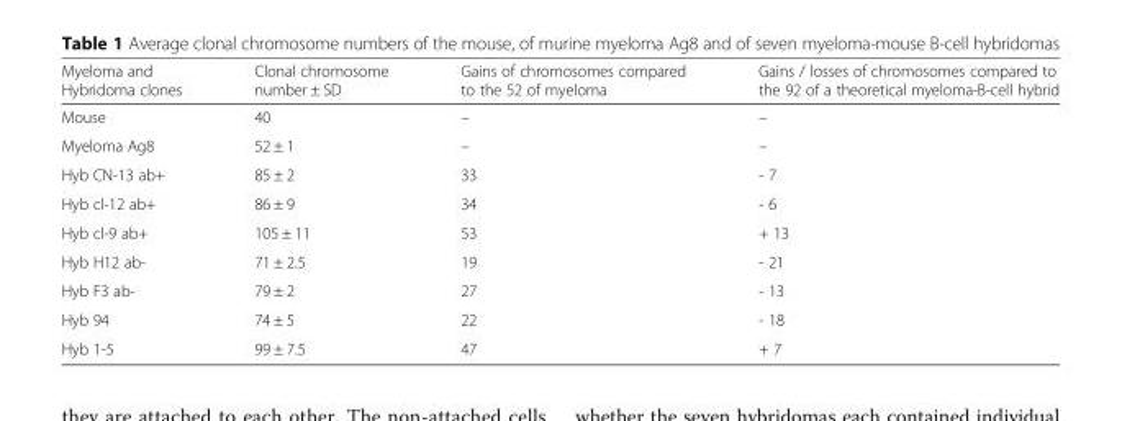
<table><thead><tr><td>Myeloma and Hybridoma clones</td><td>Clonal chromosome number ± SD</td><td>Gains of chromosomes compared to the 52 of myeloma</td><td>Gains / losses of chromosomes compared to the 92 of a theoretical myeloma-B-cell hybrid</td></tr></thead><tbody><tr><td>Mouse</td><td>40</td><td>–</td><td>–</td></tr><tr><td>Myeloma Ag8</td><td>52 ± 1</td><td>–</td><td>–</td></tr><tr><td>Hyb CN-13 ab+</td><td>85 ± 2</td><td>33</td><td>- 7</td></tr><tr><td>Hyb cl-12 ab+</td><td>86 ± 9</td><td>34</td><td>- 6</td></tr><tr><td>Hyb cl-9 ab+</td><td>105 ± 11</td><td>53</td><td>+ 13</td></tr><tr><td>Hyb H12 ab-</td><td>71 ± 2.5</td><td>19</td><td>- 21</td></tr><tr><td>Hyb F3 ab-</td><td>79 ± 2</td><td>27</td><td>- 13</td></tr><tr><td>Hyb 94</td><td>74 ± 5</td><td>22</td><td>- 18</td></tr><tr><td>Hyb 1-5</td><td>99 ± 7.5</td><td>47</td><td>+ 7</td></tr></tbody></table>